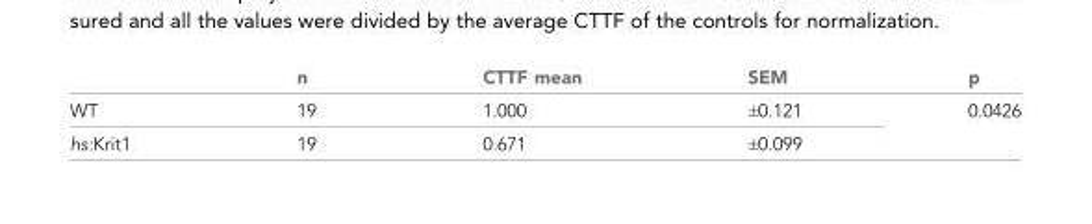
<table><thead><tr><td></td><td>n</td><td>CTTF mean</td><td>SEM</td><td>p</td></tr></thead><tbody><tr><td>WT</td><td>19</td><td>1.000</td><td>±0.121</td><td rowspan="2">0.0426</td></tr><tr><td>hs:Krit1</td><td>19</td><td>0.671</td><td>±0.099</td></tr></tbody></table>